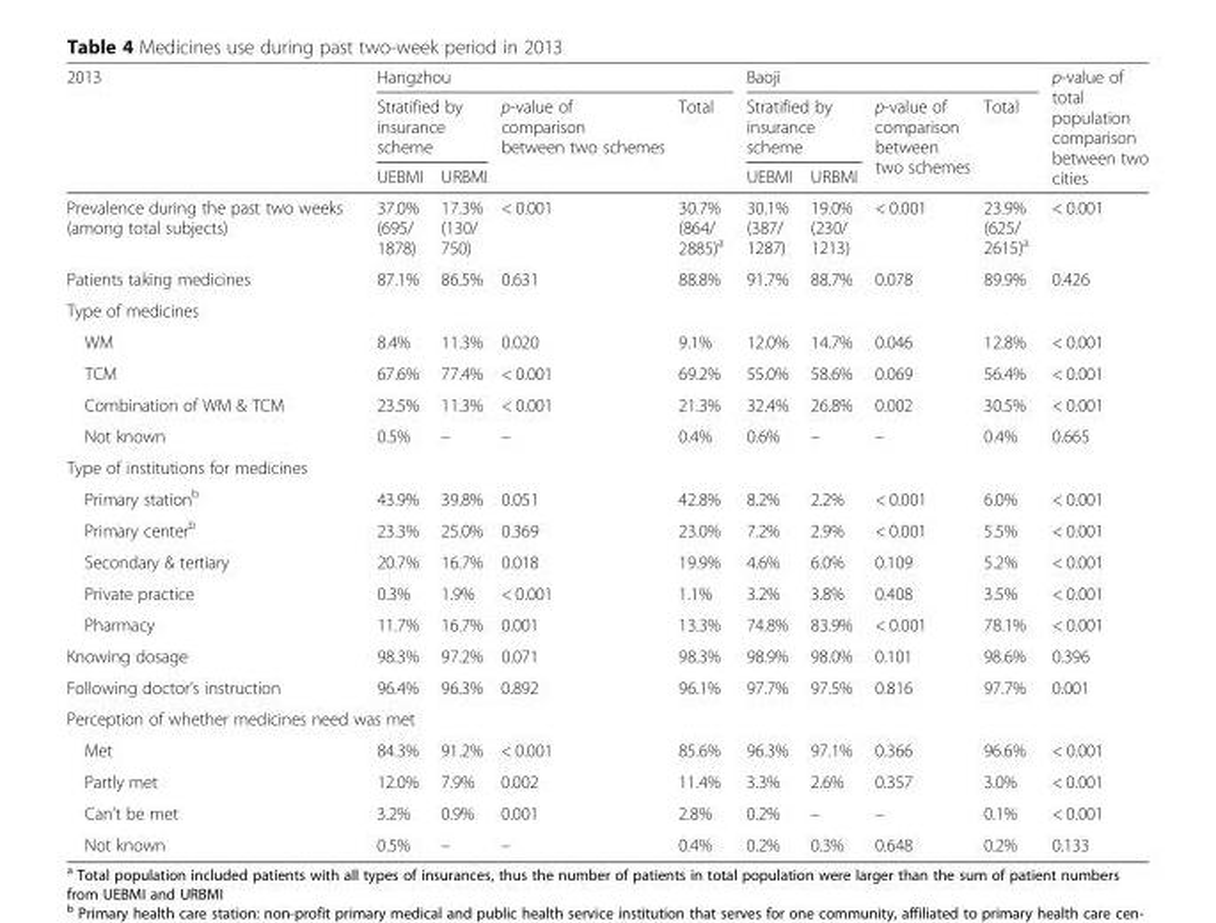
<table><thead><tr><td rowspan="3">2013</td><td colspan="4">Hangzhou</td><td colspan="4">Baoji</td><td rowspan="3">p-value of total population comparison between two cities</td></tr><tr><td colspan="2">Stratified by insurance scheme</td><td rowspan="2">p-value of comparison between two schemes</td><td rowspan="2">Total</td><td colspan="2">Stratified by insurance scheme</td><td rowspan="2">p-value of comparison between two schemes</td><td rowspan="2">Total</td></tr><tr><td>UEBMI</td><td>URBMI</td><td>UEBMI</td><td>URBMI</td></tr></thead><tbody><tr><td>Prevalence during the past two weeks (among total subjects)</td><td>37.0% (695/ 1878)</td><td>17.3% (130/ 750)</td><td>&lt; 0.001</td><td>30.7% (864/ 2885)<sup>a</sup></td><td>30.1% (387/ 1287)</td><td>19.0% (230/ 1213)</td><td>&lt; 0.001</td><td>23.9% (625/ 2615)<sup>a</sup></td><td>&lt; 0.001</td></tr><tr><td>Patients taking medicines</td><td>87.1%</td><td>86.5%</td><td>0.631</td><td>88.8%</td><td>91.7%</td><td>88.7%</td><td>0.078</td><td>89.9%</td><td>0.426</td></tr><tr><td colspan="10">Type of medicines</td></tr><tr><td>WM</td><td>8.4%</td><td>11.3%</td><td>0.020</td><td>9.1%</td><td>12.0%</td><td>14.7%</td><td>0.046</td><td>12.8%</td><td>&lt; 0.001</td></tr><tr><td>TCM</td><td>67.6%</td><td>77.4%</td><td>&lt; 0.001</td><td>69.2%</td><td>55.0%</td><td>58.6%</td><td>0.069</td><td>56.4%</td><td>&lt; 0.001</td></tr><tr><td>Combination of WM &amp; TCM</td><td>23.5%</td><td>11.3%</td><td>&lt; 0.001</td><td>21.3%</td><td>32.4%</td><td>26.8%</td><td>0.002</td><td>30.5%</td><td>&lt; 0.001</td></tr><tr><td>Not known</td><td>0.5%</td><td>–</td><td>–</td><td>0.4%</td><td>0.6%</td><td>–</td><td>–</td><td>0.4%</td><td>0.665</td></tr><tr><td colspan="10">Type of institutions for medicines</td></tr><tr><td>Primary station<sup>b</sup></td><td>43.9%</td><td>39.8%</td><td>0.051</td><td>42.8%</td><td>8.2%</td><td>2.2%</td><td>&lt; 0.001</td><td>6.0%</td><td>&lt; 0.001</td></tr><tr><td>Primary center<sup>b</sup></td><td>23.3%</td><td>25.0%</td><td>0.369</td><td>23.0%</td><td>7.2%</td><td>2.9%</td><td>&lt; 0.001</td><td>5.5%</td><td>&lt; 0.001</td></tr><tr><td>Secondary &amp; tertiary</td><td>20.7%</td><td>16.7%</td><td>0.018</td><td>19.9%</td><td>4.6%</td><td>6.0%</td><td>0.109</td><td>5.2%</td><td>&lt; 0.001</td></tr><tr><td>Private practice</td><td>0.3%</td><td>1.9%</td><td>&lt; 0.001</td><td>1.1%</td><td>3.2%</td><td>3.8%</td><td>0.408</td><td>3.5%</td><td>&lt; 0.001</td></tr><tr><td>Pharmacy</td><td>11.7%</td><td>16.7%</td><td>0.001</td><td>13.3%</td><td>74.8%</td><td>83.9%</td><td>&lt; 0.001</td><td>78.1%</td><td>&lt; 0.001</td></tr><tr><td>Knowing dosage</td><td>98.3%</td><td>97.2%</td><td>0.071</td><td>98.3%</td><td>98.9%</td><td>98.0%</td><td>0.101</td><td>98.6%</td><td>0.396</td></tr><tr><td>Following doctor’s instruction</td><td>96.4%</td><td>96.3%</td><td>0.892</td><td>96.1%</td><td>97.7%</td><td>97.5%</td><td>0.816</td><td>97.7%</td><td>0.001</td></tr><tr><td colspan="10">Perception of whether medicines need was met</td></tr><tr><td>Met</td><td>84.3%</td><td>91.2%</td><td>&lt; 0.001</td><td>85.6%</td><td>96.3%</td><td>97.1%</td><td>0.366</td><td>96.6%</td><td>&lt; 0.001</td></tr><tr><td>Partly met</td><td>12.0%</td><td>7.9%</td><td>0.002</td><td>11.4%</td><td>3.3%</td><td>2.6%</td><td>0.357</td><td>3.0%</td><td>&lt; 0.001</td></tr><tr><td>Can’t be met</td><td>3.2%</td><td>0.9%</td><td>0.001</td><td>2.8%</td><td>0.2%</td><td>–</td><td>–</td><td>0.1%</td><td>&lt; 0.001</td></tr><tr><td>Not known</td><td>0.5%</td><td>–</td><td>–</td><td>0.4%</td><td>0.2%</td><td>0.3%</td><td>0.648</td><td>0.2%</td><td>0.133</td></tr></tbody></table>